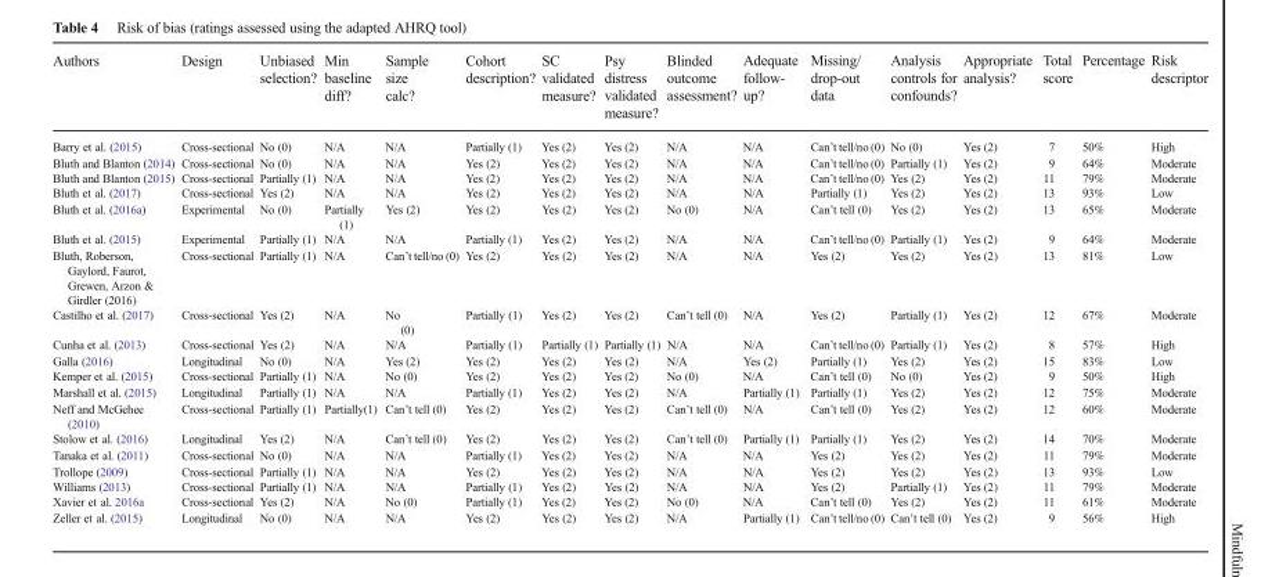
<table><thead><tr><td>Authors</td><td>Design</td><td>Unbiased selection?</td><td>Min baseline diff?</td><td>Sample size calc?</td><td>Cohort description?</td><td>SC validated measure?</td><td>Psy distress validated measure?</td><td>Blinded outcome assessment?</td><td>Adequate follow- up?</td><td>Missing/ drop-out data</td><td>Analysis controls for confounds?</td><td>Appropriate analysis?</td><td>Total score</td><td>Percentage</td><td>Risk descriptor</td></tr></thead><tbody><tr><td>Barry et al. (2015)</td><td>Cross-sectional</td><td>No (0)</td><td>N/A</td><td>N/A</td><td>Partially (1)</td><td>Yes (2)</td><td>Yes (2)</td><td>N/A</td><td>N/A</td><td>Can’t tell/no (0)</td><td>No (0)</td><td>Yes (2)</td><td>7</td><td>50%</td><td>High</td></tr><tr><td>Bluth and Blanton (2014)</td><td>Cross-sectional</td><td>No (0)</td><td>N/A</td><td>N/A</td><td>Yes (2)</td><td>Yes (2)</td><td>Yes (2)</td><td>N/A</td><td>N/A</td><td>Can’t tell/no (0)</td><td>Partially (1)</td><td>Yes (2)</td><td>9</td><td>64%</td><td>Moderate</td></tr><tr><td>Bluth and Blanton (2015)</td><td>Cross-sectional</td><td>Partially (1)</td><td>N/A</td><td>N/A</td><td>Yes (2)</td><td>Yes (2)</td><td>Yes (2)</td><td>N/A</td><td>N/A</td><td>Can’t tell/no (0)</td><td>Yes (2)</td><td>Yes (2)</td><td>11</td><td>79%</td><td>Moderate</td></tr><tr><td>Bluth et al. (2017)</td><td>Cross-sectional</td><td>Yes (2)</td><td>N/A</td><td>N/A</td><td>Yes (2)</td><td>Yes (2)</td><td>Yes (2)</td><td>N/A</td><td>N/A</td><td>Partially (1)</td><td>Yes (2)</td><td>Yes (2)</td><td>13</td><td>93%</td><td>Low</td></tr><tr><td>Bluth et al. (2016a)</td><td>Experimental</td><td>No (0)</td><td>Partially (1)</td><td>Yes (2)</td><td>Yes (2)</td><td>Yes (2)</td><td>Yes (2)</td><td>No (0)</td><td>N/A</td><td>Can’t tell (0)</td><td>Yes (2)</td><td>Yes (2)</td><td>13</td><td>65%</td><td>Moderate</td></tr><tr><td>Bluth et al. (2015)</td><td>Experimental</td><td>Partially (1)</td><td>N/A</td><td>N/A</td><td>Partially (1)</td><td>Yes (2)</td><td>Yes (2)</td><td>N/A</td><td>N/A</td><td>Can’t tell/no (0)</td><td>Partially (1)</td><td>Yes (2)</td><td>9</td><td>64%</td><td>Moderate</td></tr><tr><td>Bluth, Roberson, Gaylord, Faurot, Grewen, Arzon &amp; Girdler (2016)</td><td>Cross-sectional</td><td>Partially (1)</td><td>N/A</td><td>Can’t tell/no (0)</td><td>Yes (2)</td><td>Yes (2)</td><td>Yes (2)</td><td>N/A</td><td>N/A</td><td>Yes (2)</td><td>Yes (2)</td><td>Yes (2)</td><td>13</td><td>81%</td><td>Low</td></tr><tr><td>Castilho et al. (2017)</td><td>Cross-sectional</td><td>Yes (2)</td><td>N/A</td><td>No (0)</td><td>Partially (1)</td><td>Yes (2)</td><td>Yes (2)</td><td>Can’t tell (0)</td><td>N/A</td><td>Yes (2)</td><td>Partially (1)</td><td>Yes (2)</td><td>12</td><td>67%</td><td>Moderate</td></tr><tr><td>Cunha et al. (2013)</td><td>Cross-sectional</td><td>Yes (2)</td><td>N/A</td><td>N/A</td><td>Partially (1)</td><td>Partially (1)</td><td>Partially (1)</td><td>N/A</td><td>N/A</td><td>Can’t tell/no (0)</td><td>Partially (1)</td><td>Yes (2)</td><td>8</td><td>57%</td><td>High</td></tr><tr><td>Galla (2016)</td><td>Longitudinal</td><td>No (0)</td><td>N/A</td><td>Yes (2)</td><td>Yes (2)</td><td>Yes (2)</td><td>Yes (2)</td><td>N/A</td><td>Yes (2)</td><td>Partially (1)</td><td>Yes (2)</td><td>Yes (2)</td><td>15</td><td>83%</td><td>Low</td></tr><tr><td>Kemper et al. (2015)</td><td>Cross-sectional</td><td>Partially (1)</td><td>N/A</td><td>No (0)</td><td>Yes (2)</td><td>Yes (2)</td><td>Yes (2)</td><td>No (0)</td><td>N/A</td><td>Can’t tell (0)</td><td>No (0)</td><td>Yes (2)</td><td>9</td><td>50%</td><td>High</td></tr><tr><td>Marshall et al. (2015)</td><td>Longitudinal</td><td>Partially (1)</td><td>N/A</td><td>N/A</td><td>Partially (1)</td><td>Yes (2)</td><td>Yes (2)</td><td>N/A</td><td>Partially (1)</td><td>Partially (1)</td><td>Yes (2)</td><td>Yes (2)</td><td>12</td><td>75%</td><td>Moderate</td></tr><tr><td>Neff and McGehee (2010)</td><td>Cross-sectional</td><td>Partially (1)</td><td>Partially(1)</td><td>Can’t tell (0)</td><td>Yes (2)</td><td>Yes (2)</td><td>Yes (2)</td><td>Can’t tell (0)</td><td>N/A</td><td>Can’t tell (0)</td><td>Yes (2)</td><td>Yes (2)</td><td>12</td><td>60%</td><td>Moderate</td></tr><tr><td>Stolow et al. (2016)</td><td>Longitudinal</td><td>Yes (2)</td><td>N/A</td><td>Can’t tell (0)</td><td>Yes (2)</td><td>Yes (2)</td><td>Yes (2)</td><td>Can’t tell (0)</td><td>Partially (1)</td><td>Partially (1)</td><td>Yes (2)</td><td>Yes (2)</td><td>14</td><td>70%</td><td>Moderate</td></tr><tr><td>Tanaka et al. (2011)</td><td>Cross-sectional</td><td>No (0)</td><td>N/A</td><td>N/A</td><td>Partially (1)</td><td>Yes (2)</td><td>Yes (2)</td><td>N/A</td><td>N/A</td><td>Yes (2)</td><td>Yes (2)</td><td>Yes (2)</td><td>11</td><td>79%</td><td>Moderate</td></tr><tr><td>Trollope (2009)</td><td>Cross-sectional</td><td>Partially (1)</td><td>N/A</td><td>N/A</td><td>Yes (2)</td><td>Yes (2)</td><td>Yes (2)</td><td>N/A</td><td>N/A</td><td>Yes (2)</td><td>Yes (2)</td><td>Yes (2)</td><td>13</td><td>93%</td><td>Low</td></tr><tr><td>Williams (2013)</td><td>Cross-sectional</td><td>Partially (1)</td><td>N/A</td><td>N/A</td><td>Partially (1)</td><td>Yes (2)</td><td>Yes (2)</td><td>N/A</td><td>N/A</td><td>Yes (2)</td><td>Partially (1)</td><td>Yes (2)</td><td>11</td><td>79%</td><td>Moderate</td></tr><tr><td>Xavier et al. 2016a</td><td>Cross-sectional</td><td>Yes (2)</td><td>N/A</td><td>No (0)</td><td>Partially (1)</td><td>Yes (2)</td><td>Yes (2)</td><td>No (0)</td><td>N/A</td><td>Can’t tell (0)</td><td>Yes (2)</td><td>Yes (2)</td><td>11</td><td>61%</td><td>Moderate</td></tr><tr><td>Zeller et al. (2015)</td><td>Longitudinal</td><td>No (0)</td><td>N/A</td><td>N/A</td><td>Yes (2)</td><td>Yes (2)</td><td>Yes (2)</td><td>N/A</td><td>Partially (1)</td><td>Can’t tell/no (0)</td><td>Can’t tell (0)</td><td>Yes (2)</td><td>9</td><td>56%</td><td>High</td></tr></tbody></table>